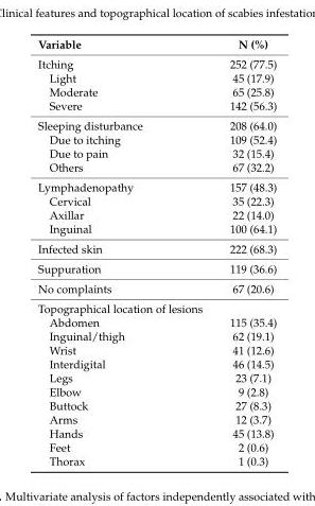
<table><thead><tr><td>Variable</td><td>N (%)</td></tr></thead><tbody><tr><td>Itching</td><td>252 (77.5)</td></tr><tr><td>Light</td><td>45 (17.9)</td></tr><tr><td>Moderate</td><td>65 (25.8)</td></tr><tr><td>Severe</td><td>142 (56.3)</td></tr><tr><td>Sleeping disturbance</td><td>208 (64.0)</td></tr><tr><td>Due to itching</td><td>109 (52.4)</td></tr><tr><td>Due to pain</td><td>32 (15.4)</td></tr><tr><td>Others</td><td>67 (32.2)</td></tr><tr><td>Lymphadenopathy</td><td>157 (48.3)</td></tr><tr><td>Cervical</td><td>35 (22.3)</td></tr><tr><td>Axillar</td><td>22 (14.0)</td></tr><tr><td>Inguinal</td><td>100 (64.1)</td></tr><tr><td>Infected skin</td><td>222 (68.3)</td></tr><tr><td>Suppuration</td><td>119 (36.6)</td></tr><tr><td>No complaints</td><td>67 (20.6)</td></tr><tr><td colspan="2">Topographical location of lesions</td></tr><tr><td>Abdomen</td><td>115 (35.4)</td></tr><tr><td>Inguinal/thigh</td><td>62 (19.1)</td></tr><tr><td>Wrist</td><td>41 (12.6)</td></tr><tr><td>Interdigital</td><td>46 (14.5)</td></tr><tr><td>Legs</td><td>23 (7.1)</td></tr><tr><td>Elbow</td><td>9 (2.8)</td></tr><tr><td>Buttock</td><td>27 (8.3)</td></tr><tr><td>Arms</td><td>12 (3.7)</td></tr><tr><td>Hands</td><td>45 (13.8)</td></tr><tr><td>Feet</td><td>2 (0.6)</td></tr><tr><td>Thorax</td><td>1 (0.3)</td></tr></tbody></table>